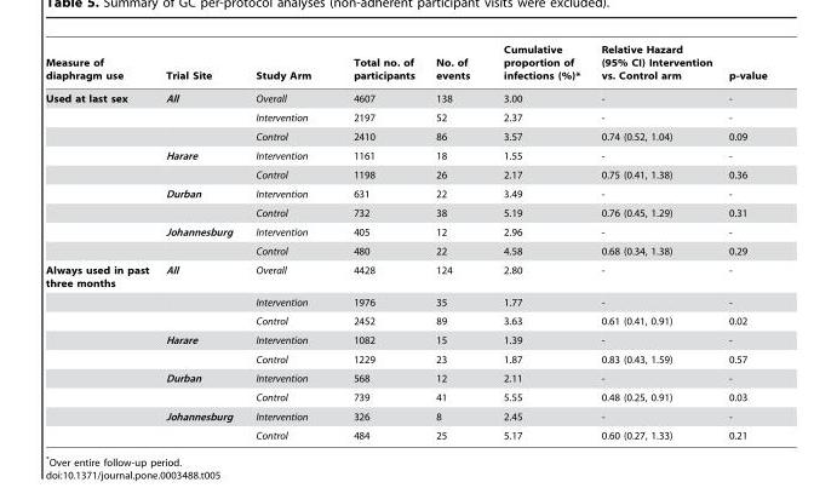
<table><thead><tr><td>Measure of diaphragm use</td><td>Trial Site</td><td>Study Arm</td><td>Total no. of participants</td><td>No. of events</td><td>Cumulative proportion of infections (%)*</td><td>Relative Hazard (95% CI) Intervention vs. Control arm</td><td>p-value</td></tr></thead><tbody><tr><td rowspan="9">Used at last sex</td><td>All</td><td>Overall</td><td>4607</td><td>138</td><td>3.00</td><td>-</td><td>-</td></tr><tr><td></td><td>Intervention</td><td>2197</td><td>52</td><td>2.37</td><td>-</td><td>-</td></tr><tr><td></td><td>Control</td><td>2410</td><td>86</td><td>3.57</td><td>0.74 (0.52, 1.04)</td><td>0.09</td></tr><tr><td>Harare</td><td>Intervention</td><td>1161</td><td>18</td><td>1.55</td><td>-</td><td>-</td></tr><tr><td></td><td>Control</td><td>1198</td><td>26</td><td>2.17</td><td>0.75 (0.41, 1.38)</td><td>0.36</td></tr><tr><td>Durban</td><td>Intervention</td><td>631</td><td>22</td><td>3.49</td><td>-</td><td>-</td></tr><tr><td></td><td>Control</td><td>732</td><td>38</td><td>5.19</td><td>0.76 (0.45, 1.29)</td><td>0.31</td></tr><tr><td>Johannesburg</td><td>Intervention</td><td>405</td><td>12</td><td>2.96</td><td>-</td><td>-</td></tr><tr><td></td><td>Control</td><td>480</td><td>22</td><td>4.58</td><td>0.68 (0.34, 1.38)</td><td>0.29</td></tr><tr><td rowspan="9">Always used in past three months</td><td>All</td><td>Overall</td><td>4428</td><td>124</td><td>2.80</td><td>-</td><td>-</td></tr><tr><td></td><td>Intervention</td><td>1976</td><td>35</td><td>1.77</td><td>-</td><td>-</td></tr><tr><td></td><td>Control</td><td>2452</td><td>89</td><td>3.63</td><td>0.61 (0.41, 0.91)</td><td>0.02</td></tr><tr><td>Harare</td><td>Intervention</td><td>1082</td><td>15</td><td>1.39</td><td>-</td><td>-</td></tr><tr><td></td><td>Control</td><td>1229</td><td>23</td><td>1.87</td><td>0.83 (0.43, 1.59)</td><td>0.57</td></tr><tr><td>Durban</td><td>Intervention</td><td>568</td><td>12</td><td>2.11</td><td>-</td><td>-</td></tr><tr><td></td><td>Control</td><td>739</td><td>41</td><td>5.55</td><td>0.48 (0.25, 0.91)</td><td>0.03</td></tr><tr><td>Johannesburg</td><td>Intervention</td><td>326</td><td>8</td><td>2.45</td><td>-</td><td>-</td></tr><tr><td></td><td>Control</td><td>484</td><td>25</td><td>5.17</td><td>0.60 (0.27, 1.33)</td><td>0.21</td></tr></tbody></table>